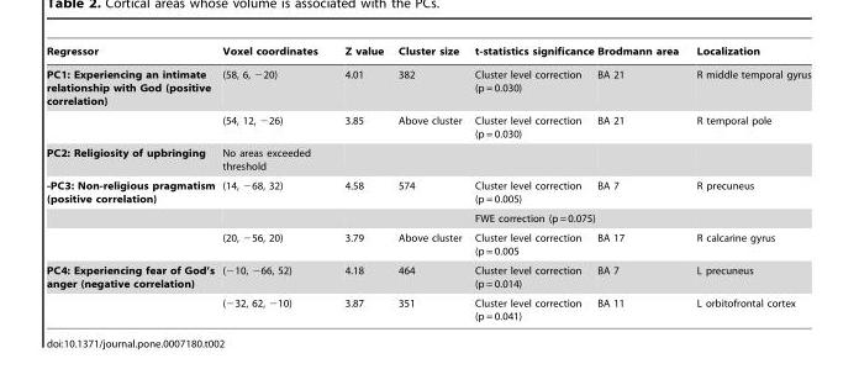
<table><thead><tr><td>Regressor</td><td>Voxel coordinates</td><td>Z value</td><td>Cluster size</td><td>t-statistics significance</td><td>Brodmann area</td><td>Localization</td></tr></thead><tbody><tr><td rowspan="2">PC1: Experiencing an intimate relationship with God (positive correlation)</td><td>(58, 6, −20)</td><td>4.01</td><td>382</td><td>Cluster level correction (p = 0.030)</td><td>BA 21</td><td>R middle temporal gyrus</td></tr><tr><td>(54, 12, −26)</td><td>3.85</td><td>Above cluster</td><td>Cluster level correction (p = 0.030)</td><td>BA 21</td><td>R temporal pole</td></tr><tr><td>PC2: Religiosity of upbringing</td><td>No areas exceeded threshold</td><td></td><td></td><td></td><td></td><td></td></tr><tr><td rowspan="3">-PC3: Non-religious pragmatism (positive correlation)</td><td>(14, −68, 32)</td><td>4.58</td><td>574</td><td>Cluster level correction (p = 0.005)</td><td>BA 7</td><td>R precuneus</td></tr><tr><td></td><td></td><td></td><td>FWE correction (p = 0.075)</td><td></td><td></td></tr><tr><td>(20, −56, 20)</td><td>3.79</td><td>Above cluster</td><td>Cluster level correction (p = 0.005</td><td>BA 17</td><td>R calcarine gyrus</td></tr><tr><td rowspan="2">PC4: Experiencing fear of God’s anger (negative correlation)</td><td>(−10, −66, 52)</td><td>4.18</td><td>464</td><td>Cluster level correction (p = 0.014)</td><td>BA 7</td><td>L precuneus</td></tr><tr><td>(−32, 62, −10)</td><td>3.87</td><td>351</td><td>Cluster level correction (p = 0.041)</td><td>BA 11</td><td>L orbitofrontal cortex</td></tr></tbody></table>